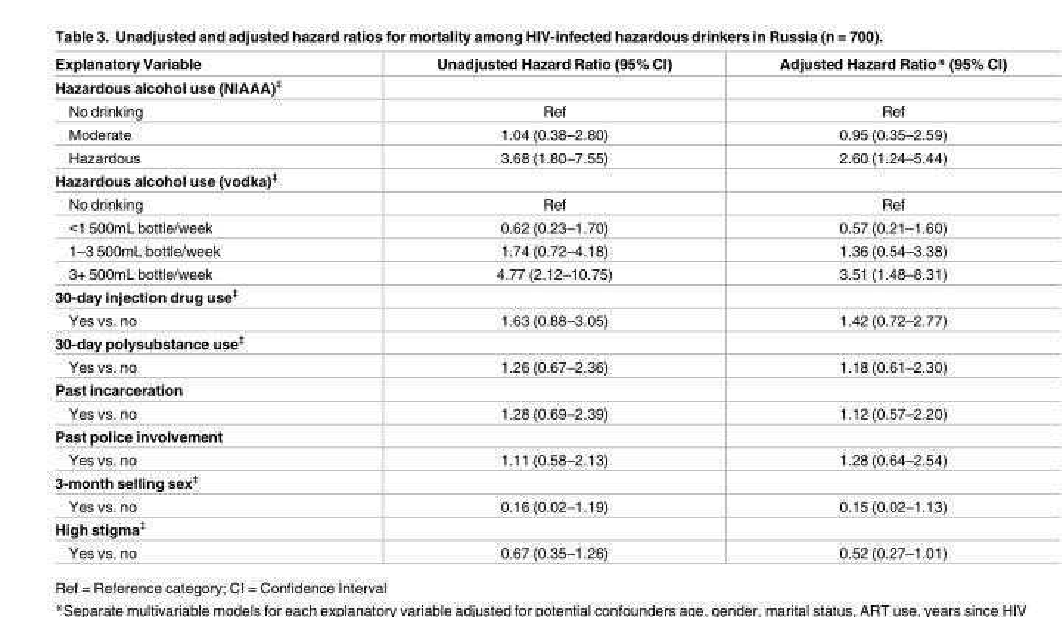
<table><thead><tr><td>Explanatory Variable</td><td>Unadjusted Hazard Ratio (95% CI)</td><td>Adjusted Hazard Ratio* (95% CI)</td></tr></thead><tbody><tr><td colspan="3">Hazardous alcohol use (NIAAA)<sup>‡</sup></td></tr><tr><td>No drinking</td><td>Ref</td><td>Ref</td></tr><tr><td>Moderate</td><td>1.04 (0.38–2.80)</td><td>0.95 (0.35–2.59)</td></tr><tr><td>Hazardous</td><td>3.68 (1.80–7.55)</td><td>2.60 (1.24–5.44)</td></tr><tr><td colspan="3">Hazardous alcohol use (vodka)<sup>‡</sup></td></tr><tr><td>No drinking</td><td>Ref</td><td>Ref</td></tr><tr><td>&lt;1 500mL bottle/week</td><td>0.62 (0.23–1.70)</td><td>0.57 (0.21–1.60)</td></tr><tr><td>1–3 500mL bottle/week</td><td>1.74 (0.72–4.18)</td><td>1.36 (0.54–3.38)</td></tr><tr><td>3+ 500mL bottle/week</td><td>4.77 (2.12–10.75)</td><td>3.51 (1.48–8.31)</td></tr><tr><td colspan="3">30-day injection drug use<sup>‡</sup></td></tr><tr><td>Yes vs. no</td><td>1.63 (0.88–3.05)</td><td>1.42 (0.72–2.77)</td></tr><tr><td colspan="3">30-day polysubstance use<sup>‡</sup></td></tr><tr><td>Yes vs. no</td><td>1.26 (0.67–2.36)</td><td>1.18 (0.61–2.30)</td></tr><tr><td colspan="3">Past incarceration</td></tr><tr><td>Yes vs. no</td><td>1.28 (0.69–2.39)</td><td>1.12 (0.57–2.20)</td></tr><tr><td colspan="3">Past police involvement</td></tr><tr><td>Yes vs. no</td><td>1.11 (0.58–2.13)</td><td>1.28 (0.64–2.54)</td></tr><tr><td colspan="3">3-month selling sex<sup>‡</sup></td></tr><tr><td>Yes vs. no</td><td>0.16 (0.02–1.19)</td><td>0.15 (0.02–1.13)</td></tr><tr><td colspan="3">High stigma<sup>‡</sup></td></tr><tr><td>Yes vs. no</td><td>0.67 (0.35–1.26)</td><td>0.52 (0.27–1.01)</td></tr></tbody></table>